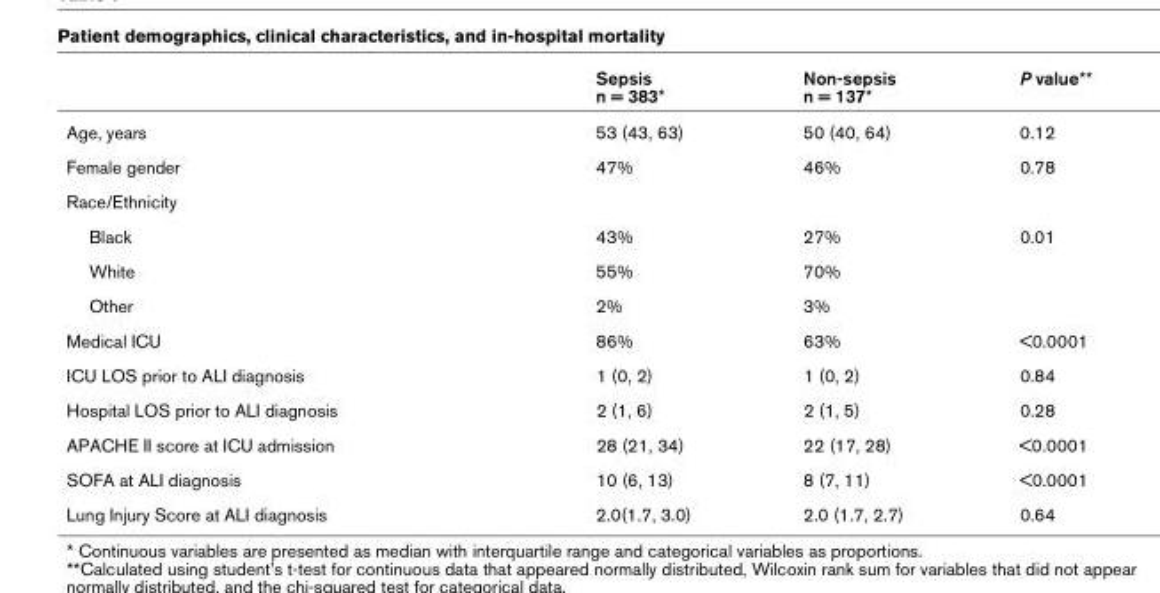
<table><thead><tr><td></td><td>Sepsis n = 383*</td><td>Non-sepsis n = 137*</td><td>P value**</td></tr></thead><tbody><tr><td>Age, years</td><td>53 (43, 63)</td><td>50 (40, 64)</td><td>0.12</td></tr><tr><td>Female gender</td><td>47%</td><td>46%</td><td>0.78</td></tr><tr><td colspan="4">Race/Ethnicity</td></tr><tr><td>Black</td><td>43%</td><td>27%</td><td>0.01</td></tr><tr><td>White</td><td>55%</td><td>70%</td><td></td></tr><tr><td>Other</td><td>2%</td><td>3%</td><td></td></tr><tr><td>Medical ICU</td><td>86%</td><td>63%</td><td>&lt;0.0001</td></tr><tr><td>ICU LOS prior to ALI diagnosis</td><td>1 (0, 2)</td><td>1 (0, 2)</td><td>0.84</td></tr><tr><td>Hospital LOS prior to ALI diagnosis</td><td>2 (1, 6)</td><td>2 (1, 5)</td><td>0.28</td></tr><tr><td>APACHE II score at ICU admission</td><td>28 (21, 34)</td><td>22 (17, 28)</td><td>&lt;0.0001</td></tr><tr><td>SOFA at ALI diagnosis</td><td>10 (6, 13)</td><td>8 (7, 11)</td><td>&lt;0.0001</td></tr><tr><td>Lung Injury Score at ALI diagnosis</td><td>2.0(1.7, 3.0)</td><td>2.0 (1.7, 2.7)</td><td>0.64</td></tr></tbody></table>